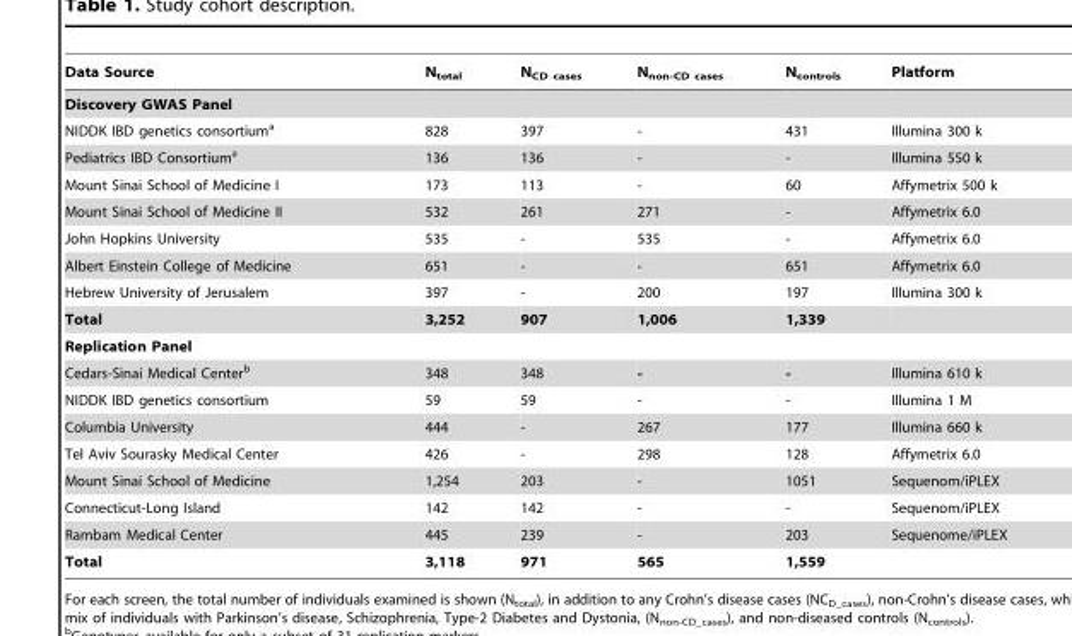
<table><thead><tr><td>Data Source</td><td>N<sub>total</sub></td><td>N<sub>CD cases</sub></td><td>N<sub>non-CD cases</sub></td><td>N<sub>controls</sub></td><td>Platform</td></tr></thead><tbody><tr><td colspan="6">Discovery GWAS Panel</td></tr><tr><td>NIDDK IBD genetics consortium<sup>a</sup></td><td>828</td><td>397</td><td>-</td><td>431</td><td>Illumina 300 k</td></tr><tr><td>Pediatrics IBD Consortium<sup>a</sup></td><td>136</td><td>136</td><td>-</td><td>-</td><td>Illumina 550 k</td></tr><tr><td>Mount Sinai School of Medicine I</td><td>173</td><td>113</td><td>-</td><td>60</td><td>Affymetrix 500 k</td></tr><tr><td>Mount Sinai School of Medicine II</td><td>532</td><td>261</td><td>271</td><td>-</td><td>Affymetrix 6.0</td></tr><tr><td>John Hopkins University</td><td>535</td><td>-</td><td>535</td><td>-</td><td>Affymetrix 6.0</td></tr><tr><td>Albert Einstein College of Medicine</td><td>651</td><td>-</td><td>-</td><td>651</td><td>Affymetrix 6.0</td></tr><tr><td>Hebrew University of Jerusalem</td><td>397</td><td>-</td><td>200</td><td>197</td><td>Illumina 300 k</td></tr><tr><td>Total</td><td>3,252</td><td>907</td><td>1,006</td><td>1,339</td><td></td></tr><tr><td colspan="6">Replication Panel</td></tr><tr><td>Cedars-Sinai Medical Center<sup>b</sup></td><td>348</td><td>348</td><td>-</td><td>-</td><td>Illumina 610 k</td></tr><tr><td>NIDDK IBD genetics consortium</td><td>59</td><td>59</td><td>-</td><td>-</td><td>Illumina 1 M</td></tr><tr><td>Columbia University</td><td>444</td><td>-</td><td>267</td><td>177</td><td>Illumina 660 k</td></tr><tr><td>Tel Aviv Sourasky Medical Center</td><td>426</td><td>-</td><td>298</td><td>128</td><td>Affymetrix 6.0</td></tr><tr><td>Mount Sinai School of Medicine</td><td>1,254</td><td>203</td><td>-</td><td>1051</td><td>Sequenom/iPLEX</td></tr><tr><td>Connecticut-Long Island</td><td>142</td><td>142</td><td>-</td><td>-</td><td>Sequenom/iPLEX</td></tr><tr><td>Rambam Medical Center</td><td>445</td><td>239</td><td>-</td><td>203</td><td>Sequenome/iPLEX</td></tr><tr><td>Total</td><td>3,118</td><td>971</td><td>565</td><td>1,559</td><td></td></tr></tbody></table>